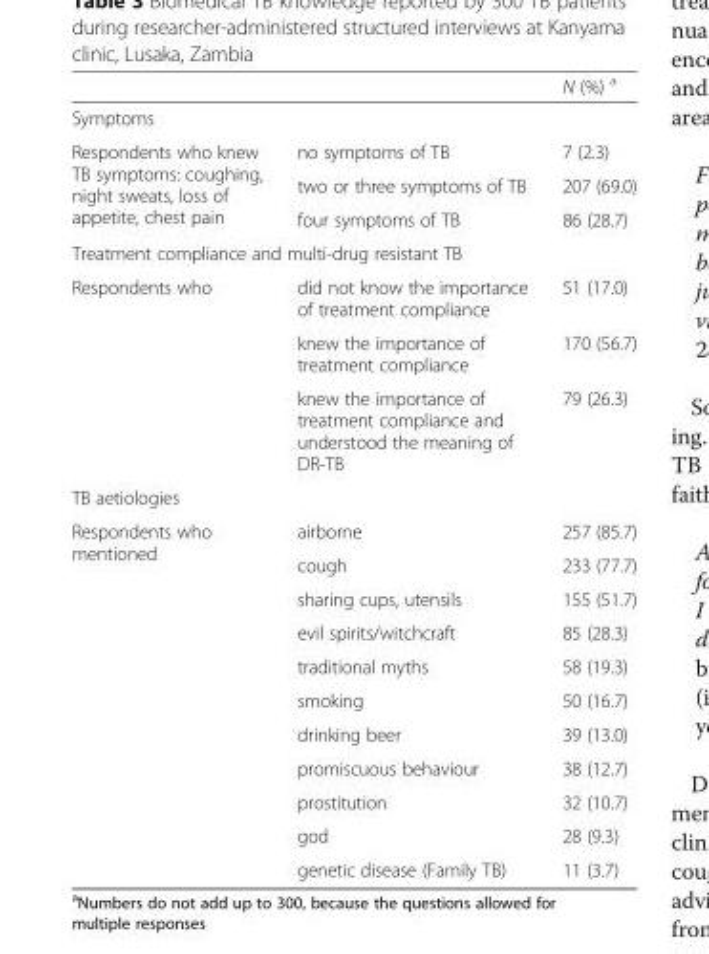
<table><thead><tr><td></td><td></td><td>N (%) <sup>a</sup></td></tr></thead><tbody><tr><td colspan="3">Symptoms</td></tr><tr><td rowspan="3">Respondents who knew TB symptoms: coughing, night sweats, loss of appetite, chest pain</td><td>no symptoms of TB</td><td>7 (2.3)</td></tr><tr><td>two or three symptoms of TB</td><td>207 (69.0)</td></tr><tr><td>four symptoms of TB</td><td>86 (28.7)</td></tr><tr><td colspan="3">Treatment compliance and multi-drug resistant TB</td></tr><tr><td rowspan="3">Respondents who</td><td>did not know the importance of treatment compliance</td><td>51 (17.0)</td></tr><tr><td>knew the importance of treatment compliance</td><td>170 (56.7)</td></tr><tr><td>knew the importance of treatment compliance and understood the meaning of DR-TB</td><td>79 (26.3)</td></tr><tr><td colspan="3">TB aetiologies</td></tr><tr><td rowspan="11">Respondents who mentioned</td><td>airborne</td><td>257 (85.7)</td></tr><tr><td>cough</td><td>233 (77.7)</td></tr><tr><td>sharing cups, utensils</td><td>155 (51.7)</td></tr><tr><td>evil spirits/witchcraft</td><td>85 (28.3)</td></tr><tr><td>traditional myths</td><td>58 (19.3)</td></tr><tr><td>smoking</td><td>50 (16.7)</td></tr><tr><td>drinking beer</td><td>39 (13.0)</td></tr><tr><td>promiscuous behaviour</td><td>38 (12.7)</td></tr><tr><td>prostitution</td><td>32 (10.7)</td></tr><tr><td>god</td><td>28 (9.3)</td></tr><tr><td>genetic disease (Family TB)</td><td>11 (3.7)</td></tr></tbody></table>